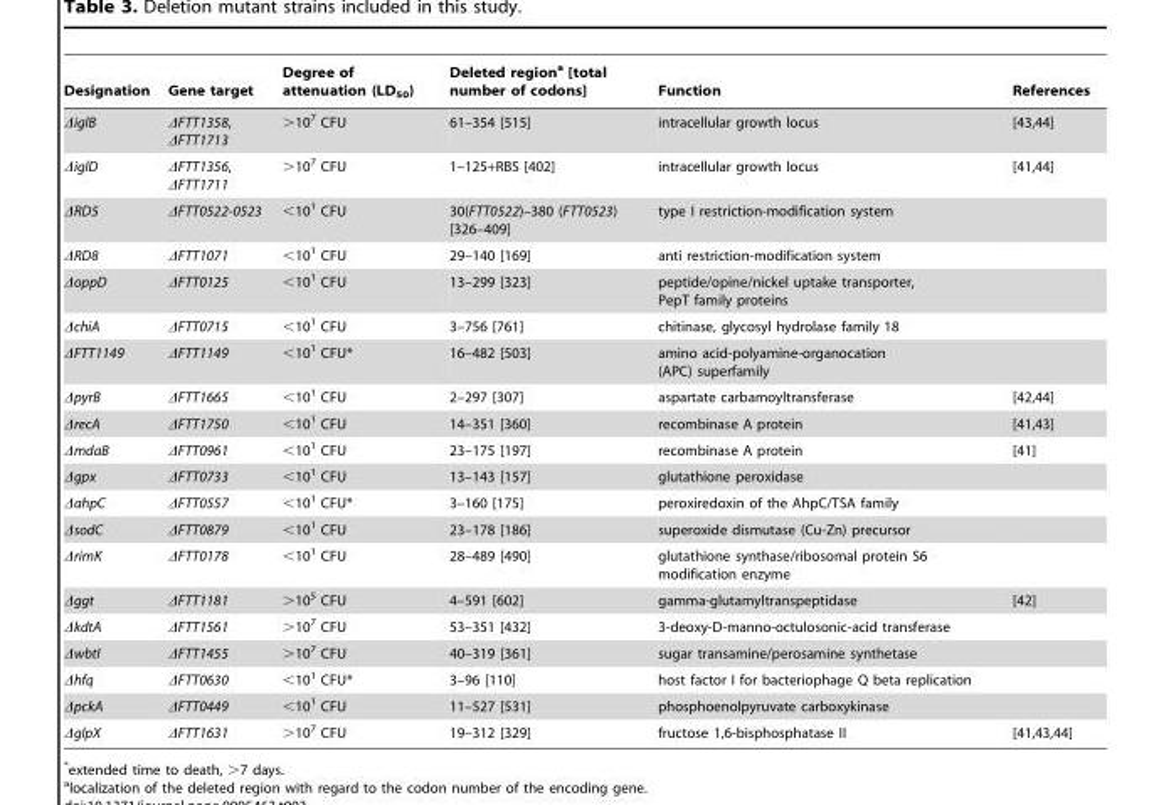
<table><thead><tr><td>Designation</td><td>Gene target</td><td>Degree of attenuation (LD<sub>50</sub>)</td><td>Deleted region<sup>a</sup> [total number of codons]</td><td>Function</td><td>References</td></tr></thead><tbody><tr><td>ΔiglB</td><td>ΔFTT1358, ΔFTT1713</td><td>&gt;10<sup>7</sup> CFU</td><td>61–354 [515]</td><td>intracellular growth locus</td><td>[43,44]</td></tr><tr><td>ΔiglD</td><td>ΔFTT1356, ΔFTT1711</td><td>&gt;10<sup>7</sup> CFU</td><td>1–125+RBS [402]</td><td>intracellular growth locus</td><td>[41,44]</td></tr><tr><td>ΔRD5</td><td>ΔFTT0522-0523</td><td>&lt;10<sup>1</sup> CFU</td><td>30(FTT0522)–380 (FTT0523) [326–409]</td><td>type I restriction-modification system</td><td></td></tr><tr><td>ΔRD8</td><td>ΔFTT1071</td><td>&lt;10<sup>1</sup> CFU</td><td>29–140 [169]</td><td>anti restriction-modification system</td><td></td></tr><tr><td>ΔoppD</td><td>ΔFTT0125</td><td>&lt;10<sup>1</sup> CFU</td><td>13–299 [323]</td><td>peptide/opine/nickel uptake transporter, PepT family proteins</td><td></td></tr><tr><td>ΔchiA</td><td>ΔFTT0715</td><td>&lt;10<sup>1</sup> CFU</td><td>3–756 [761]</td><td>chitinase, glycosyl hydrolase family 18</td><td></td></tr><tr><td>ΔFTT1149</td><td>ΔFTT1149</td><td>&lt;10<sup>1</sup> CFU*</td><td>16–482 [503]</td><td>amino acid-polyamine-organocation (APC) superfamily</td><td></td></tr><tr><td>ΔpyrB</td><td>ΔFTT1665</td><td>&lt;10<sup>1</sup> CFU</td><td>2–297 [307]</td><td>aspartate carbamoyltransferase</td><td>[42,44]</td></tr><tr><td>ΔrecA</td><td>ΔFTT1750</td><td>&lt;10<sup>1</sup> CFU</td><td>14–351 [360]</td><td>recombinase A protein</td><td>[41,43]</td></tr><tr><td>ΔmdaB</td><td>ΔFTT0961</td><td>&lt;10<sup>1</sup> CFU</td><td>23–175 [197]</td><td>recombinase A protein</td><td>[41]</td></tr><tr><td>Δgpx</td><td>ΔFTT0733</td><td>&lt;10<sup>1</sup> CFU</td><td>13–143 [157]</td><td>glutathione peroxidase</td><td></td></tr><tr><td>ΔahpC</td><td>ΔFTT0557</td><td>&lt;10<sup>1</sup> CFU*</td><td>3–160 [175]</td><td>peroxiredoxin of the AhpC/TSA family</td><td></td></tr><tr><td>ΔsodC</td><td>ΔFTT0879</td><td>&lt;10<sup>1</sup> CFU</td><td>23–178 [186]</td><td>superoxide dismutase (Cu-Zn) precursor</td><td></td></tr><tr><td>ΔrimK</td><td>ΔFTT0178</td><td>&lt;10<sup>1</sup> CFU</td><td>28–489 [490]</td><td>glutathione synthase/ribosomal protein S6 modification enzyme</td><td></td></tr><tr><td>Δggt</td><td>ΔFTT1181</td><td>&gt;10<sup>5</sup> CFU</td><td>4–591 [602]</td><td>gamma-glutamyltranspeptidase</td><td>[42]</td></tr><tr><td>ΔkdtA</td><td>ΔFTT1561</td><td>&gt;10<sup>7</sup> CFU</td><td>53–351 [432]</td><td>3-deoxy-D-manno-octulosonic-acid transferase</td><td></td></tr><tr><td>ΔwbtI</td><td>ΔFTT1455</td><td>&gt;10<sup>7</sup> CFU</td><td>40–319 [361]</td><td>sugar transamine/perosamine synthetase</td><td></td></tr><tr><td>Δhfq</td><td>ΔFTT0630</td><td>&lt;10<sup>1</sup> CFU*</td><td>3–96 [110]</td><td>host factor I for bacteriophage Q beta replication</td><td></td></tr><tr><td>ΔpckA</td><td>ΔFTT0449</td><td>&lt;10<sup>1</sup> CFU</td><td>11–527 [531]</td><td>phosphoenolpyruvate carboxykinase</td><td></td></tr><tr><td>ΔglpX</td><td>ΔFTT1631</td><td>&gt;10<sup>7</sup> CFU</td><td>19–312 [329]</td><td>fructose 1,6-bisphosphatase II</td><td>[41,43,44]</td></tr></tbody></table>